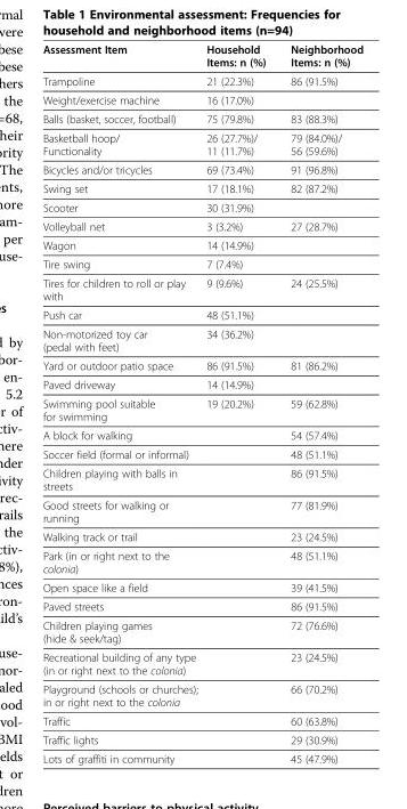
<table><thead><tr><td>Assessment Item</td><td>Household Items: n (%)</td><td>Neighborhood Items: n (%)</td></tr></thead><tbody><tr><td>Trampoline</td><td>21 (22.3%)</td><td>86 (91.5%)</td></tr><tr><td>Weight/exercise machine</td><td>16 (17.0%)</td><td></td></tr><tr><td>Balls (basket, soccer, football)</td><td>75 (79.8%)</td><td>83 (88.3%)</td></tr><tr><td>Basketball hoop/ Functionality</td><td>26 (27.7%)/ 11 (11.7%)</td><td>79 (84.0%)/ 56 (59.6%)</td></tr><tr><td>Bicycles and/or tricycles</td><td>69 (73.4%)</td><td>91 (96.8%)</td></tr><tr><td>Swing set</td><td>17 (18.1%)</td><td>82 (87.2%)</td></tr><tr><td>Scooter</td><td>30 (31.9%)</td><td></td></tr><tr><td>Volleyball net</td><td>3 (3.2%)</td><td>27 (28.7%)</td></tr><tr><td>Wagon</td><td>14 (14.9%)</td><td></td></tr><tr><td>Tire swing</td><td>7 (7.4%)</td><td></td></tr><tr><td>Tires for children to roll or play with</td><td>9 (9.6%)</td><td>24 (25.5%)</td></tr><tr><td>Push car</td><td>48 (51.1%)</td><td></td></tr><tr><td>Non-motorized toy car (pedal with feet)</td><td>34 (36.2%)</td><td></td></tr><tr><td>Yard or outdoor patio space</td><td>86 (91.5%)</td><td>81 (86.2%)</td></tr><tr><td>Paved driveway</td><td>14 (14.9%)</td><td></td></tr><tr><td>Swimming pool suitable for swimming</td><td>19 (20.2%)</td><td>59 (62.8%)</td></tr><tr><td>A block for walking</td><td></td><td>54 (57.4%)</td></tr><tr><td>Soccer field (formal or informal)</td><td></td><td>48 (51.1%)</td></tr><tr><td>Children playing with balls in streets</td><td></td><td>86 (91.5%)</td></tr><tr><td>Good streets for walking or running</td><td></td><td>77 (81.9%)</td></tr><tr><td>Walking track or trail</td><td></td><td>23 (24.5%)</td></tr><tr><td>Park (in or right next to the colonia)</td><td></td><td>48 (51.1%)</td></tr><tr><td>Open space like a field</td><td></td><td>39 (41.5%)</td></tr><tr><td>Paved streets</td><td></td><td>86 (91.5%)</td></tr><tr><td>Children playing games (hide &amp; seek/tag)</td><td></td><td>72 (76.6%)</td></tr><tr><td>Recreational building of any type (in or right next to the colonia)</td><td></td><td>23 (24.5%)</td></tr><tr><td>Playground (schools or churches); in or right next to the colonia</td><td></td><td>66 (70.2%)</td></tr><tr><td>Traffic</td><td></td><td>60 (63.8%)</td></tr><tr><td>Traffic lights</td><td></td><td>29 (30.9%)</td></tr><tr><td>Lots of graffiti in community</td><td></td><td>45 (47.9%)</td></tr></tbody></table>